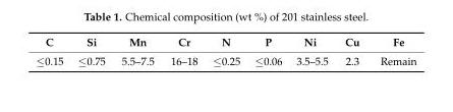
<table><thead><tr><td>C</td><td>Si</td><td>Mn</td><td>Cr</td><td>N</td><td>P</td><td>Ni</td><td>Cu</td><td>Fe</td></tr></thead><tbody><tr><td>≤0.15</td><td>≤0.75</td><td>5.5–7.5</td><td>16–18</td><td>≤0.25</td><td>≤0.06</td><td>3.5–5.5</td><td>2.3</td><td>Remain</td></tr></tbody></table>